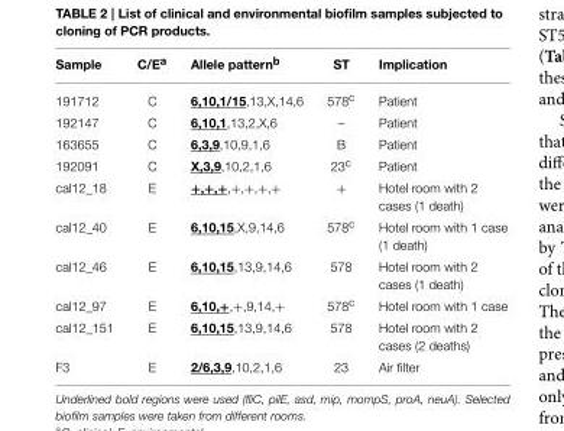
<table><thead><tr><td>Sample</td><td>C/E<sup>a</sup></td><td>Allele pattern<sup>b</sup></td><td>ST</td><td>Implication</td></tr></thead><tbody><tr><td>191712</td><td>C</td><td>6,10,1/15,13,X,14,6</td><td>578<sup>c</sup></td><td>Patient</td></tr><tr><td>192147</td><td>C</td><td>6,10,1,13,2,X,6</td><td>–</td><td>Patient</td></tr><tr><td>163655</td><td>C</td><td>6,3,9,10,9,1,6</td><td>B</td><td>Patient</td></tr><tr><td>192091</td><td>C</td><td>X,3,9,10,2,1,6</td><td>23<sup>c</sup></td><td>Patient</td></tr><tr><td>cal12_18</td><td>E</td><td>+,+,+,+,+,+,+</td><td>+</td><td>Hotel room with 2 cases (1 death)</td></tr><tr><td>cal12_40</td><td>E</td><td>6,10,15,X,9,14,6</td><td>578<sup>c</sup></td><td>Hotel room with 1 case (1 death)</td></tr><tr><td>cal12_46</td><td>E</td><td>6,10,15,13,9,14,6</td><td>578</td><td>Hotel room with 2 cases (1 death)</td></tr><tr><td>cal12_97</td><td>E</td><td>6,10,+,+,9,14,+</td><td>578<sup>c</sup></td><td>Hotel room with 1 case</td></tr><tr><td>cal12_151</td><td>E</td><td>6,10,15,13,9,14,6</td><td>578</td><td>Hotel room with 2 cases (2 deaths)</td></tr><tr><td>F3</td><td>E</td><td>2/6,3,9,10,2,1,6</td><td>23</td><td>Air filter</td></tr></tbody></table>